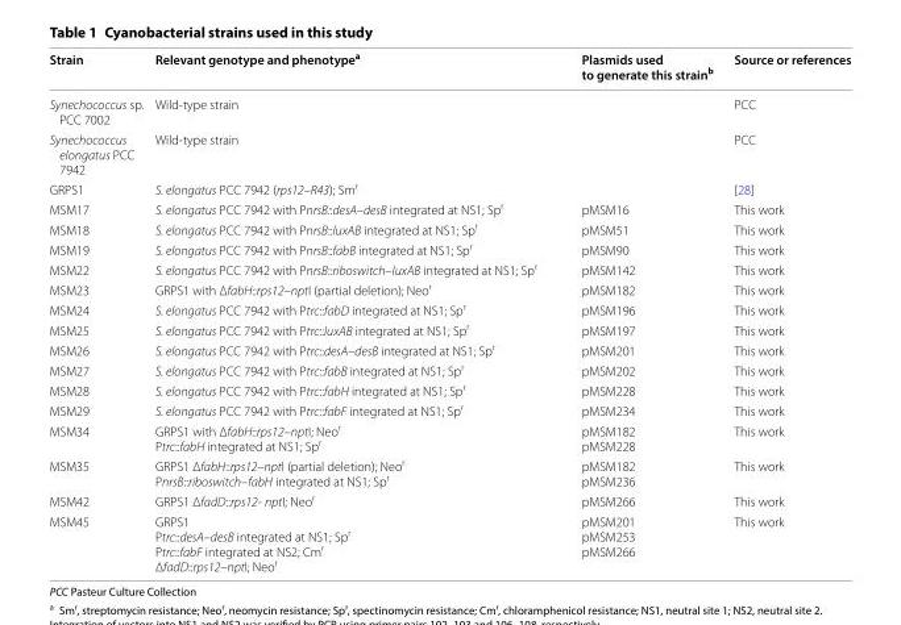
<table><thead><tr><td>Strain</td><td>Relevant genotype and phenotype<sup>a</sup></td><td>Plasmids used to generate this strain<sup>b</sup></td><td>Source or references</td></tr></thead><tbody><tr><td>Synechococcus sp. PCC 7002</td><td>Wild‑type strain</td><td></td><td>PCC</td></tr><tr><td>Synechococcus elongatus PCC 7942</td><td>Wild‑type strain</td><td></td><td>PCC</td></tr><tr><td>GRPS1</td><td>S. elongatus PCC 7942 (rps12–R43); Sm<sup>r</sup></td><td></td><td>[28]</td></tr><tr><td>MSM17</td><td>S. elongatus PCC 7942 with PnrsB::desA–desB integrated at NS1; Sp<sup>r</sup></td><td>pMSM16</td><td>This work</td></tr><tr><td>MSM18</td><td>S. elongatus PCC 7942 with PnrsB::luxAB integrated at NS1; Sp<sup>r</sup></td><td>pMSM51</td><td>This work</td></tr><tr><td>MSM19</td><td>S. elongatus PCC 7942 with PnrsB::fabB integrated at NS1; Sp<sup>r</sup></td><td>pMSM90</td><td>This work</td></tr><tr><td>MSM22</td><td>S. elongatus PCC 7942 with PnrsB::riboswitch–luxAB integrated at NS1; Sp<sup>r</sup></td><td>pMSM142</td><td>This work</td></tr><tr><td>MSM23</td><td>GRPS1 with ΔfabH::rps12–nptI (partial deletion); Neo<sup>r</sup></td><td>pMSM182</td><td>This work</td></tr><tr><td>MSM24</td><td>S. elongatus PCC 7942 with Ptrc::fabD integrated at NS1; Sp<sup>r</sup></td><td>pMSM196</td><td>This work</td></tr><tr><td>MSM25</td><td>S. elongatus PCC 7942 with Ptrc::luxAB integrated at NS1; Sp<sup>r</sup></td><td>pMSM197</td><td>This work</td></tr><tr><td>MSM26</td><td>S. elongatus PCC 7942 with Ptrc::desA–desB integrated at NS1; Sp<sup>r</sup></td><td>pMSM201</td><td>This work</td></tr><tr><td>MSM27</td><td>S. elongatus PCC 7942 with Ptrc::fabB integrated at NS1; Sp<sup>r</sup></td><td>pMSM202</td><td>This work</td></tr><tr><td>MSM28</td><td>S. elongatus PCC 7942 with Ptrc::fabH integrated at NS1; Sp<sup>r</sup></td><td>pMSM228</td><td>This work</td></tr><tr><td>MSM29</td><td>S. elongatus PCC 7942 with Ptrc::fabF integrated at NS1; Sp<sup>r</sup></td><td>pMSM234</td><td>This work</td></tr><tr><td>MSM34</td><td>GRPS1 with ΔfabH::rps12–nptI; Neo<sup>r</sup> Ptrc::fabH integrated at NS1; Sp<sup>r</sup></td><td>pMSM182 pMSM228</td><td>This work</td></tr><tr><td>MSM35</td><td>GRPS1 ΔfabH::rps12–nptI (partial deletion); Neo<sup>r</sup> PnrsB::riboswitch–fabH integrated at NS1; Sp<sup>r</sup></td><td>pMSM182 pMSM236</td><td>This work</td></tr><tr><td>MSM42</td><td>GRPS1 ΔfadD::rps12‑ nptI; Neo<sup>r</sup></td><td>pMSM266</td><td>This work</td></tr><tr><td>MSM45</td><td>GRPS1 Ptrc::desA–desB integrated at NS1; Sp<sup>r</sup> Ptrc::fabF integrated at NS2; Cm<sup>r</sup> ΔfadD::rps12–nptI; Neo<sup>r</sup></td><td>pMSM201 pMSM253 pMSM266</td><td>This work</td></tr></tbody></table>